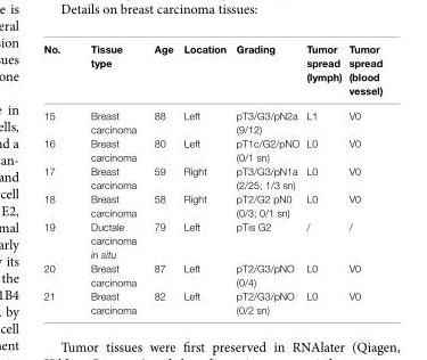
<table><thead><tr><td>no.</td><td>Tissue type</td><td>age</td><td>location</td><td>grading</td><td>Tumor spread (lymph)</td><td>Tumor spread (blood vessel)</td></tr></thead><tbody><tr><td>15</td><td>Breast carcinoma</td><td>88</td><td>Left</td><td>pT3/G3/pN2a (9/12)</td><td>L1</td><td>V0</td></tr><tr><td>16</td><td>Breast carcinoma</td><td>80</td><td>Left</td><td>pT1c/G2/pNO (0/1 sn)</td><td>L0</td><td>V0</td></tr><tr><td>17</td><td>Breast carcinoma</td><td>59</td><td>Right</td><td>pT3/G3/pN1a (2/25; 1/3 sn)</td><td>L0</td><td>V0</td></tr><tr><td>18</td><td>Breast carcinoma</td><td>58</td><td>Right</td><td>pT2/G2 pN0 (0/3; 0/1 sn)</td><td>L0</td><td>V0</td></tr><tr><td>19</td><td>Ductale carcinoma in situ</td><td>79</td><td>Left</td><td>pTis G2</td><td>/</td><td>/</td></tr><tr><td>20</td><td>Breast carcinoma</td><td>87</td><td>Left</td><td>pT2/G3/pNO (0/4)</td><td>L0</td><td>V0</td></tr><tr><td>21</td><td>Breast carcinoma</td><td>82</td><td>Left</td><td>pT2/G3/pNO (0/2 sn)</td><td>L0</td><td>V0</td></tr></tbody></table>